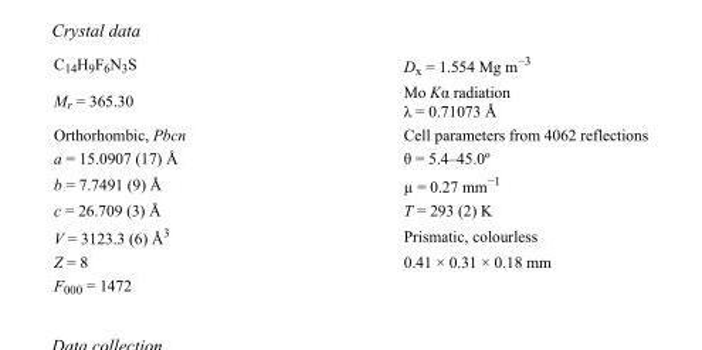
<table><tbody><tr><td>C<sub>14</sub>H<sub>9</sub>F<sub>6</sub>N<sub>3</sub>S</td><td>D<sub>x</sub> = 1.554 Mg m<sup>−3</sup></td></tr><tr><td>M<sub>r</sub> = 365.30</td><td>Mo Kα radiation λ = 0.71073 Å</td></tr><tr><td>Orthorhombic, Pbcn</td><td>Cell parameters from 4062 reflections</td></tr><tr><td>a = 15.0907 (17) Å</td><td>θ = 5.4–45.0º</td></tr><tr><td>b = 7.7491 (9) Å</td><td>µ = 0.27 mm<sup>−1</sup></td></tr><tr><td>c = 26.709 (3) Å</td><td>T = 293 (2) K</td></tr><tr><td>V = 3123.3 (6) Å<sup>3</sup></td><td>Prismatic, colourless</td></tr><tr><td>Z = 8</td><td>0.41 × 0.31 × 0.18 mm</td></tr><tr><td>F<sub>000</sub> = 1472</td><td></td></tr></tbody></table>